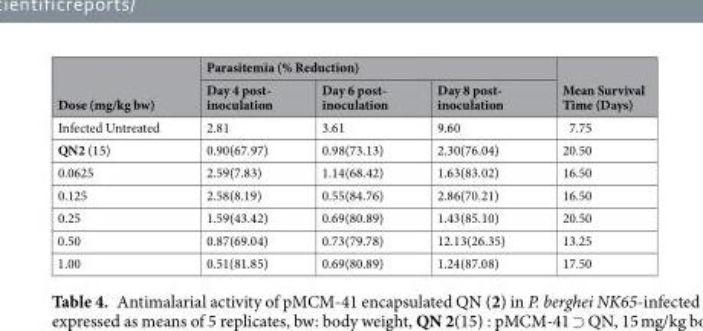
<table><thead><tr><td rowspan="2">Dose (mg/kg bw)</td><td colspan="3">Parasitemia (% Reduction)</td><td rowspan="2">Mean Survival Time (Days)</td></tr><tr><td>Day 4 post- inoculation</td><td>Day 6 post- inoculation</td><td>Day 8 post- inoculation</td></tr></thead><tbody><tr><td>Infected Untreated</td><td>2.81</td><td>3.61</td><td>9.60</td><td>7.75</td></tr><tr><td>QN2 (15)</td><td>0.90(67.97)</td><td>0.98(73.13)</td><td>2.30(76.04)</td><td>20.50</td></tr><tr><td>0.0625</td><td>2.59(7.83)</td><td>1.14(68.42)</td><td>1.63(83.02)</td><td>16.50</td></tr><tr><td>0.125</td><td>2.58(8.19)</td><td>0.55(84.76)</td><td>2.86(70.21)</td><td>16.50</td></tr><tr><td>0.25</td><td>1.59(43.42)</td><td>0.69(80.89)</td><td>1.43(85.10)</td><td>20.50</td></tr><tr><td>0.50</td><td>0.87(69.04)</td><td>0.73(79.78)</td><td>12.13(26.35)</td><td>13.25</td></tr><tr><td>1.00</td><td>0.51(81.85)</td><td>0.69(80.89)</td><td>1.24(87.08)</td><td>17.50</td></tr></tbody></table>